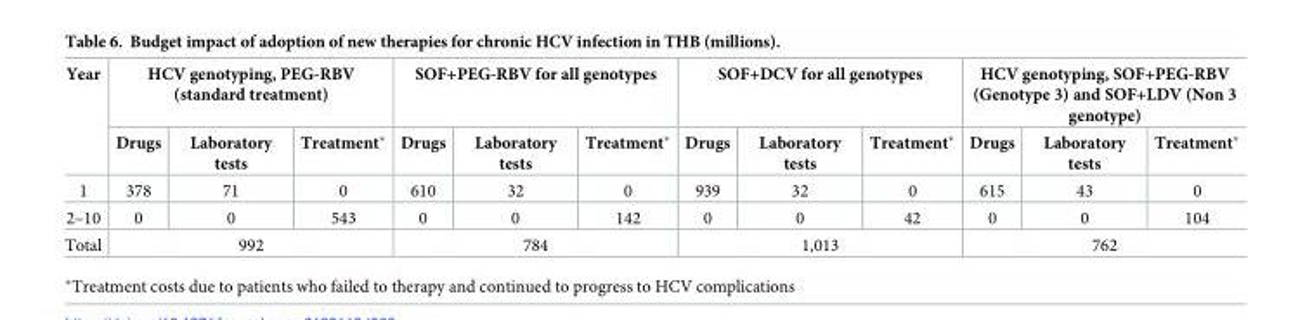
<table><thead><tr><td rowspan="2">Year</td><td colspan="3">HCV genotyping, PEG-RBV (standard treatment)</td><td colspan="3">SOF+PEG-RBV for all genotypes</td><td colspan="3">SOF+DCV for all genotypes</td><td colspan="3">HCV genotyping, SOF+PEG-RBV (Genotype 3) and SOF+LDV (Non 3 genotype)</td></tr><tr><td>Drugs</td><td>Laboratory tests</td><td>Treatment*</td><td>Drugs</td><td>Laboratory tests</td><td>Treatment*</td><td>Drugs</td><td>Laboratory tests</td><td>Treatment*</td><td>Drugs</td><td>Laboratory tests</td><td>Treatment*</td></tr></thead><tbody><tr><td>1</td><td>378</td><td>71</td><td>0</td><td>610</td><td>32</td><td>0</td><td>939</td><td>32</td><td>0</td><td>615</td><td>43</td><td>0</td></tr><tr><td>2–10</td><td>0</td><td>0</td><td>543</td><td>0</td><td>0</td><td>142</td><td>0</td><td>0</td><td>42</td><td>0</td><td>0</td><td>104</td></tr><tr><td>Total</td><td colspan="3">992</td><td colspan="3">784</td><td colspan="3">1,013</td><td colspan="3">762</td></tr></tbody></table>